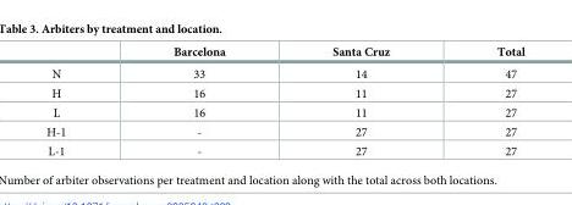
<table><thead><tr><td></td><td>Barcelona</td><td>Santa Cruz</td><td>Total</td></tr></thead><tbody><tr><td>N</td><td>33</td><td>14</td><td>47</td></tr><tr><td>H</td><td>16</td><td>11</td><td>27</td></tr><tr><td>L</td><td>16</td><td>11</td><td>27</td></tr><tr><td>H-1</td><td>-</td><td>27</td><td>27</td></tr><tr><td>L-1</td><td>-</td><td>27</td><td>27</td></tr></tbody></table>